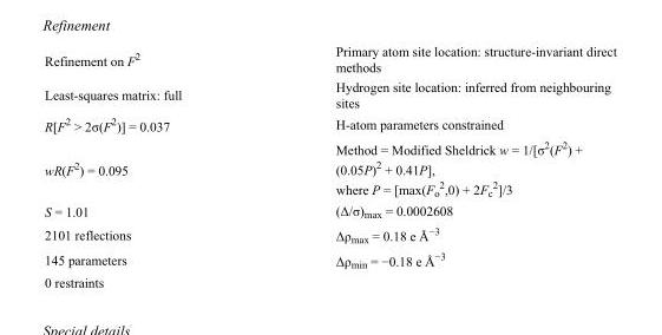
<table><tbody><tr><td>Refinement on F<sup>2</sup></td><td>Primary atom site location: structure-invariant direct methods</td></tr><tr><td>Least-squares matrix: full</td><td>Hydrogen site location: inferred from neighbouring sites</td></tr><tr><td>R[F<sup>2</sup> &gt; 2σ(F<sup>2</sup>)] = 0.037</td><td>H-atom parameters constrained</td></tr><tr><td>wR(F<sup>2</sup>) = 0.095</td><td>Method = Modified Sheldrick w = 1/[σ<sup>2</sup>(F<sup>2</sup>) + (0.05P)<sup>2</sup> + 0.41P], where P = [max(F<sub>o</sub> <sup>2</sup>,0) + 2F<sub>c</sub> <sup>2</sup>]/3</td></tr><tr><td>S = 1.01</td><td>(Δ/σ)<sub>max</sub> = 0.0002608</td></tr><tr><td>2101 reflections</td><td>Δρ<sub>max</sub> = 0.18 e Å<sup>−3</sup></td></tr><tr><td>145 parameters</td><td>Δρ<sub>min</sub> = −0.18 e Å<sup>−3</sup></td></tr><tr><td>0 restraints</td><td></td></tr></tbody></table>